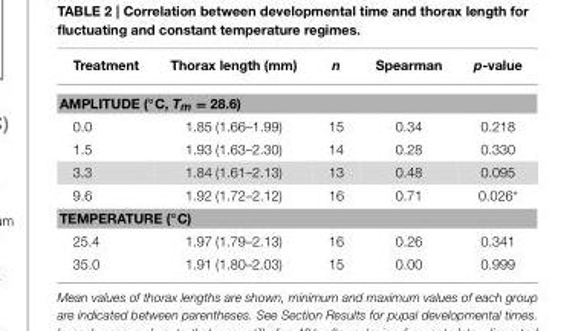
<table><thead><tr><td>Treatment</td><td>Thorax length (mm)</td><td>n</td><td>Spearman</td><td>p-value</td></tr></thead><tbody><tr><td colspan="5">AMPLITUDE (◦C, Tm = 28.6)</td></tr><tr><td>0.0</td><td>1.85 (1.66–1.99)</td><td>15</td><td>0.34</td><td>0.218</td></tr><tr><td>1.5</td><td>1.93 (1.63–2.30)</td><td>14</td><td>0.28</td><td>0.330</td></tr><tr><td>3.3</td><td>1.84 (1.61–2.13)</td><td>13</td><td>0.48</td><td>0.095</td></tr><tr><td>9.6</td><td>1.92 (1.72–2.12)</td><td>16</td><td>0.71</td><td>0.026*</td></tr><tr><td colspan="5">TEMPERATURE (◦C)</td></tr><tr><td>25.4</td><td>1.97 (1.79–2.13)</td><td>16</td><td>0.26</td><td>0.341</td></tr><tr><td>35.0</td><td>1.91 (1.80–2.03)</td><td>15</td><td>0.00</td><td>0.999</td></tr></tbody></table>